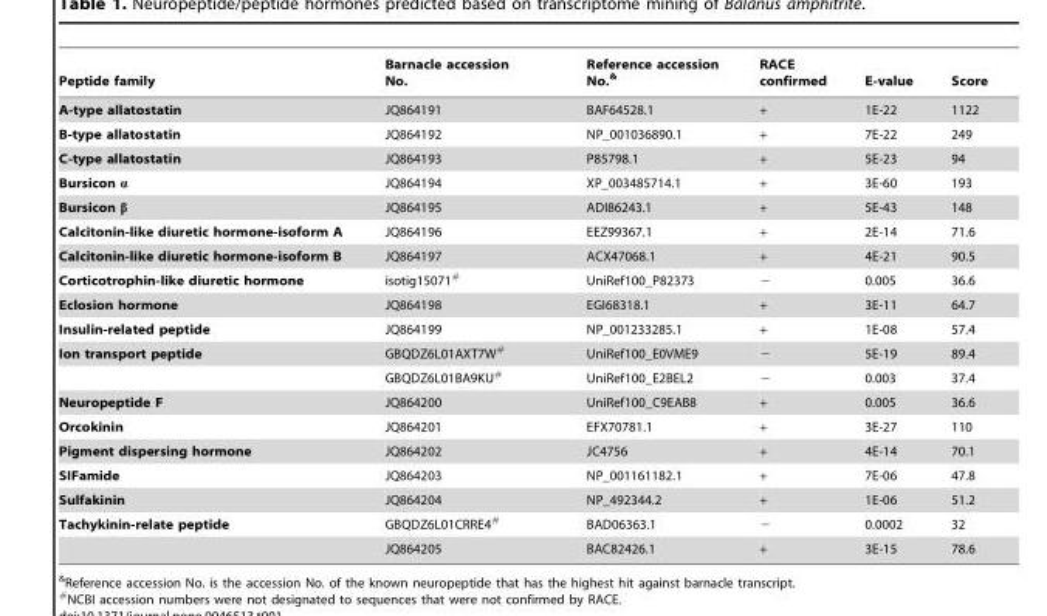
<table><thead><tr><td>Peptide family</td><td>Barnacle accession No.</td><td>Reference accession No.&amp;</td><td>RACE confirmed</td><td>E-value</td><td>Score</td></tr></thead><tbody><tr><td>A-type allatostatin</td><td>JQ864191</td><td>BAF64528.1</td><td>+</td><td>1E-22</td><td>1122</td></tr><tr><td>B-type allatostatin</td><td>JQ864192</td><td>NP_001036890.1</td><td>+</td><td>7E-22</td><td>249</td></tr><tr><td>C-type allatostatin</td><td>JQ864193</td><td>P85798.1</td><td>+</td><td>5E-23</td><td>94</td></tr><tr><td>Bursicon α</td><td>JQ864194</td><td>XP_003485714.1</td><td>+</td><td>3E-60</td><td>193</td></tr><tr><td>Bursicon β</td><td>JQ864195</td><td>ADI86243.1</td><td>+</td><td>5E-43</td><td>148</td></tr><tr><td>Calcitonin-like diuretic hormone-isoform A</td><td>JQ864196</td><td>EEZ99367.1</td><td>+</td><td>2E-14</td><td>71.6</td></tr><tr><td>Calcitonin-like diuretic hormone-isoform B</td><td>JQ864197</td><td>ACX47068.1</td><td>+</td><td>4E-21</td><td>90.5</td></tr><tr><td>Corticotrophin-like diuretic hormone</td><td>isotig15071#</td><td>UniRef100_P82373</td><td>−</td><td>0.005</td><td>36.6</td></tr><tr><td>Eclosion hormone</td><td>JQ864198</td><td>EGI68318.1</td><td>+</td><td>3E-11</td><td>64.7</td></tr><tr><td>Insulin-related peptide</td><td>JQ864199</td><td>NP_001233285.1</td><td>+</td><td>1E-08</td><td>57.4</td></tr><tr><td rowspan="2">Ion transport peptide</td><td>GBQDZ6L01AXT7W#</td><td>UniRef100_E0VME9</td><td>−</td><td>5E-19</td><td>89.4</td></tr><tr><td>GBQDZ6L01BA9KU#</td><td>UniRef100_E2BEL2</td><td>−</td><td>0.003</td><td>37.4</td></tr><tr><td>Neuropeptide F</td><td>JQ864200</td><td>UniRef100_C9EAB8</td><td>+</td><td>0.005</td><td>36.6</td></tr><tr><td>Orcokinin</td><td>JQ864201</td><td>EFX70781.1</td><td>+</td><td>3E-27</td><td>110</td></tr><tr><td>Pigment dispersing hormone</td><td>JQ864202</td><td>JC4756</td><td>+</td><td>4E-14</td><td>70.1</td></tr><tr><td>SIFamide</td><td>JQ864203</td><td>NP_001161182.1</td><td>+</td><td>7E-06</td><td>47.8</td></tr><tr><td>Sulfakinin</td><td>JQ864204</td><td>NP_492344.2</td><td>+</td><td>1E-06</td><td>51.2</td></tr><tr><td rowspan="2">Tachykinin-relate peptide</td><td>GBQDZ6L01CRRE4#</td><td>BAD06363.1</td><td>−</td><td>0.0002</td><td>32</td></tr><tr><td>JQ864205</td><td>BAC82426.1</td><td>+</td><td>3E-15</td><td>78.6</td></tr></tbody></table>